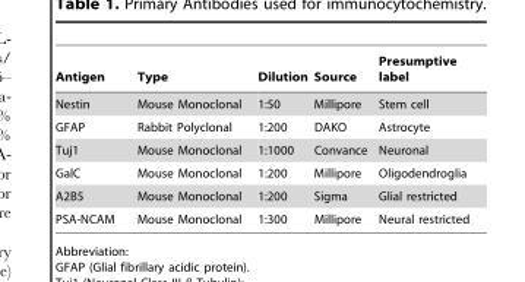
<table><thead><tr><td>Antigen</td><td>Type</td><td>Dilution</td><td>Source</td><td>Presumptive label</td></tr></thead><tbody><tr><td>Nestin</td><td>Mouse Monoclonal</td><td>1:50</td><td>Millipore</td><td>Stem cell</td></tr><tr><td>GFAP</td><td>Rabbit Polyclonal</td><td>1:200</td><td>DAKO</td><td>Astrocyte</td></tr><tr><td>Tuj1</td><td>Mouse Monoclonal</td><td>1:1000</td><td>Convance</td><td>Neuronal</td></tr><tr><td>GalC</td><td>Mouse Monoclonal</td><td>1:200</td><td>Millipore</td><td>Oligodendroglia</td></tr><tr><td>A2B5</td><td>Mouse Monoclonal</td><td>1:200</td><td>Sigma</td><td>Glial restricted</td></tr><tr><td>PSA-NCAM</td><td>Mouse Monoclonal</td><td>1:300</td><td>Millipore</td><td>Neural restricted</td></tr></tbody></table>